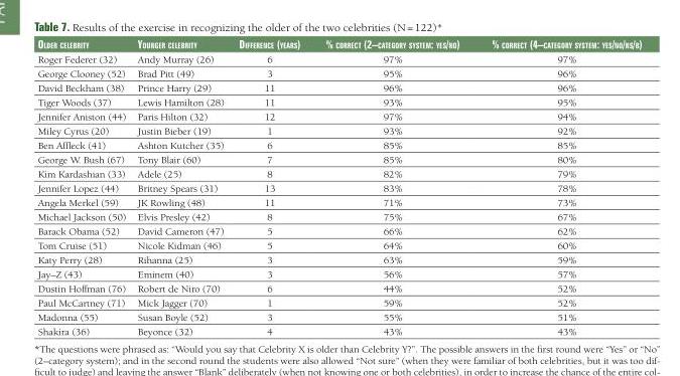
<table><thead><tr><td>older Celebrity</td><td>younger Celebrity</td><td>differenCe (years)</td><td>% CorreCt (2–Category system: yes/no)</td><td>% CorreCt (4–Category system: yes/no/ns/b)</td></tr></thead><tbody><tr><td>Roger Federer (32)</td><td>Andy Murray (26)</td><td>6</td><td>97%</td><td>97%</td></tr><tr><td>George Clooney (52)</td><td>Brad Pitt (49)</td><td>3</td><td>95%</td><td>96%</td></tr><tr><td>David Beckham (38)</td><td>Prince Harry (29)</td><td>11</td><td>96%</td><td>96%</td></tr><tr><td>Tiger Woods (37)</td><td>Lewis Hamilton (28)</td><td>11</td><td>93%</td><td>95%</td></tr><tr><td>Jennifer Aniston (44)</td><td>Paris Hilton (32)</td><td>12</td><td>97%</td><td>94%</td></tr><tr><td>Miley Cyrus (20)</td><td>Justin Bieber (19)</td><td>1</td><td>93%</td><td>92%</td></tr><tr><td>Ben Affleck (41)</td><td>Ashton Kutcher (35)</td><td>6</td><td>85%</td><td>85%</td></tr><tr><td>George W. Bush (67)</td><td>Tony Blair (60)</td><td>7</td><td>85%</td><td>80%</td></tr><tr><td>Kim Kardashian (33)</td><td>Adele (25)</td><td>8</td><td>82%</td><td>79%</td></tr><tr><td>Jennifer Lopez (44)</td><td>Britney Spears (31)</td><td>13</td><td>83%</td><td>78%</td></tr><tr><td>Angela Merkel (59)</td><td>JK Rowling (48)</td><td>11</td><td>71%</td><td>73%</td></tr><tr><td>Michael Jackson (50)</td><td>Elvis Presley (42)</td><td>8</td><td>75%</td><td>67%</td></tr><tr><td>Barack Obama (52)</td><td>David Cameron (47)</td><td>5</td><td>66%</td><td>62%</td></tr><tr><td>Tom Cruise (51)</td><td>Nicole Kidman (46)</td><td>5</td><td>64%</td><td>60%</td></tr><tr><td>Katy Perry (28)</td><td>Rihanna (25)</td><td>3</td><td>63%</td><td>59%</td></tr><tr><td>Jay–Z (43)</td><td>Eminem (40)</td><td>3</td><td>56%</td><td>57%</td></tr><tr><td>Dustin Hoffman (76)</td><td>Robert de Niro (70)</td><td>6</td><td>44%</td><td>52%</td></tr><tr><td>Paul McCartney (71)</td><td>Mick Jagger (70)</td><td>1</td><td>59%</td><td>52%</td></tr><tr><td>Madonna (55)</td><td>Susan Boyle (52)</td><td>3</td><td>55%</td><td>51%</td></tr><tr><td>Shakira (36)</td><td>Beyonce (32)</td><td>4</td><td>43%</td><td>43%</td></tr></tbody></table>